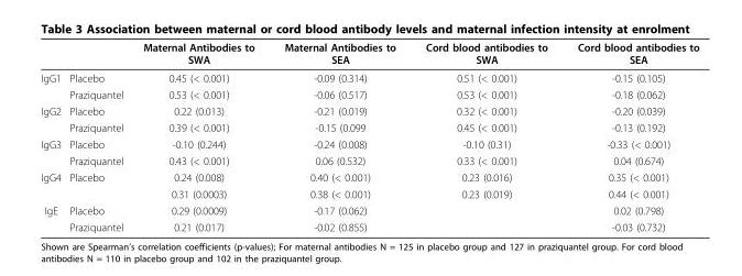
<table><thead><tr><td></td><td></td><td>Maternal Antibodies to SWA</td><td>Maternal Antibodies to SEA</td><td>Cord blood antibodies to SWA</td><td>Cord blood antibodies to SEA</td></tr></thead><tbody><tr><td rowspan="2">IgG1</td><td>Placebo</td><td>0.45 (&lt; 0.001)</td><td>-0.09 (0.314)</td><td>0.51 (&lt; 0.001)</td><td>-0.15 (0.105)</td></tr><tr><td>Praziquantel</td><td>0.53 (&lt; 0.001)</td><td>-0.06 (0.517)</td><td>0.53 (&lt; 0.001)</td><td>-0.18 (0.062)</td></tr><tr><td rowspan="2">IgG2</td><td>Placebo</td><td>0.22 (0.013)</td><td>-0.21 (0.019)</td><td>0.32 (&lt; 0.001)</td><td>-0.20 (0.039)</td></tr><tr><td>Praziquantel</td><td>0.39 (&lt; 0.001)</td><td>-0.15 (0.099</td><td>0.45 (&lt; 0.001)</td><td>-0.13 (0.192)</td></tr><tr><td rowspan="2">IgG3</td><td>Placebo</td><td>-0.10 (0.244)</td><td>-0.24 (0.008)</td><td>-0.10 (0.31)</td><td>-0.33 (&lt; 0.001)</td></tr><tr><td>Praziquantel</td><td>0.43 (&lt; 0.001)</td><td>0.06 (0.532)</td><td>0.33 (&lt; 0.001)</td><td>0.04 (0.674)</td></tr><tr><td rowspan="2">IgG4</td><td>Placebo</td><td>0.24 (0.008)</td><td>0.40 (&lt; 0.001)</td><td>0.23 (0.016)</td><td>0.35 (&lt; 0.001)</td></tr><tr><td></td><td>0.31 (0.0003)</td><td>0.38 (&lt; 0.001)</td><td>0.23 (0.019)</td><td>0.44 (&lt; 0.001)</td></tr><tr><td rowspan="2">IgE</td><td>Placebo</td><td>0.29 (0.0009)</td><td>-0.17 (0.062)</td><td></td><td>0.02 (0.798)</td></tr><tr><td>Praziquantel</td><td>0.21 (0.017)</td><td>-0.02 (0.855)</td><td></td><td>-0.03 (0.732)</td></tr></tbody></table>